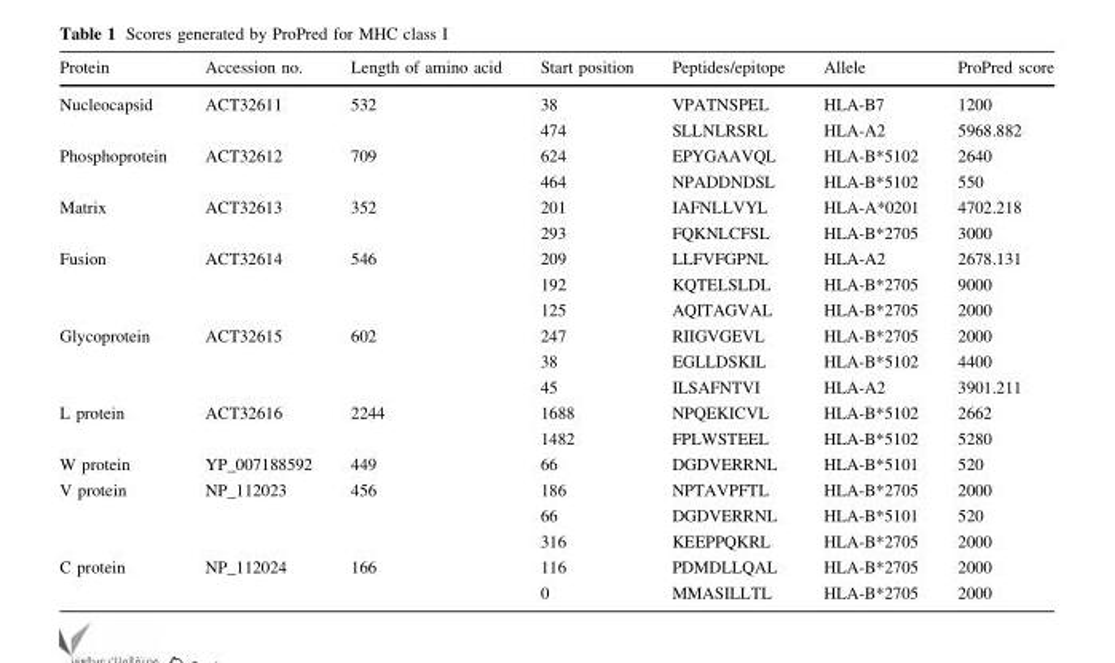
<table><thead><tr><td>Protein</td><td>Accession no.</td><td>Length of amino acid</td><td>Start position</td><td>Peptides/epitope</td><td>Allele</td><td>ProPred score</td></tr></thead><tbody><tr><td rowspan="2">Nucleocapsid</td><td rowspan="2">ACT32611</td><td rowspan="2">532</td><td>38</td><td>VPATNSPEL</td><td>HLA-B7</td><td>1200</td></tr><tr><td>474</td><td>SLLNLRSRL</td><td>HLA-A2</td><td>5968.882</td></tr><tr><td rowspan="2">Phosphoprotein</td><td rowspan="2">ACT32612</td><td rowspan="2">709</td><td>624</td><td>EPYGAAVQL</td><td>HLA-B*5102</td><td>2640</td></tr><tr><td>464</td><td>NPADDNDSL</td><td>HLA-B*5102</td><td>550</td></tr><tr><td rowspan="2">Matrix</td><td rowspan="2">ACT32613</td><td rowspan="2">352</td><td>201</td><td>IAFNLLVYL</td><td>HLA-A*0201</td><td>4702.218</td></tr><tr><td>293</td><td>FQKNLCFSL</td><td>HLA-B*2705</td><td>3000</td></tr><tr><td rowspan="3">Fusion</td><td rowspan="3">ACT32614</td><td rowspan="3">546</td><td>209</td><td>LLFVFGPNL</td><td>HLA-A2</td><td>2678.131</td></tr><tr><td>192</td><td>KQTELSLDL</td><td>HLA-B*2705</td><td>9000</td></tr><tr><td>125</td><td>AQITAGVAL</td><td>HLA-B*2705</td><td>2000</td></tr><tr><td rowspan="3">Glycoprotein</td><td rowspan="3">ACT32615</td><td rowspan="3">602</td><td>247</td><td>RIIGVGEVL</td><td>HLA-B*2705</td><td>2000</td></tr><tr><td>38</td><td>EGLLDSKIL</td><td>HLA-B*5102</td><td>4400</td></tr><tr><td>45</td><td>ILSAFNTVI</td><td>HLA-A2</td><td>3901.211</td></tr><tr><td rowspan="2">L protein</td><td rowspan="2">ACT32616</td><td rowspan="2">2244</td><td>1688</td><td>NPQEKICVL</td><td>HLA-B*5102</td><td>2662</td></tr><tr><td>1482</td><td>FPLWSTEEL</td><td>HLA-B*5102</td><td>5280</td></tr><tr><td>W protein</td><td>YP_007188592</td><td>449</td><td>66</td><td>DGDVERRNL</td><td>HLA-B*5101</td><td>520</td></tr><tr><td rowspan="3">V protein</td><td rowspan="3">NP_112023</td><td rowspan="3">456</td><td>186</td><td>NPTAVPFTL</td><td>HLA-B*2705</td><td>2000</td></tr><tr><td>66</td><td>DGDVERRNL</td><td>HLA-B*5101</td><td>520</td></tr><tr><td>316</td><td>KEEPPQKRL</td><td>HLA-B*2705</td><td>2000</td></tr><tr><td rowspan="2">C protein</td><td rowspan="2">NP_112024</td><td rowspan="2">166</td><td>116</td><td>PDMDLLQAL</td><td>HLA-B*2705</td><td>2000</td></tr><tr><td>0</td><td>MMASILLTL</td><td>HLA-B*2705</td><td>2000</td></tr></tbody></table>